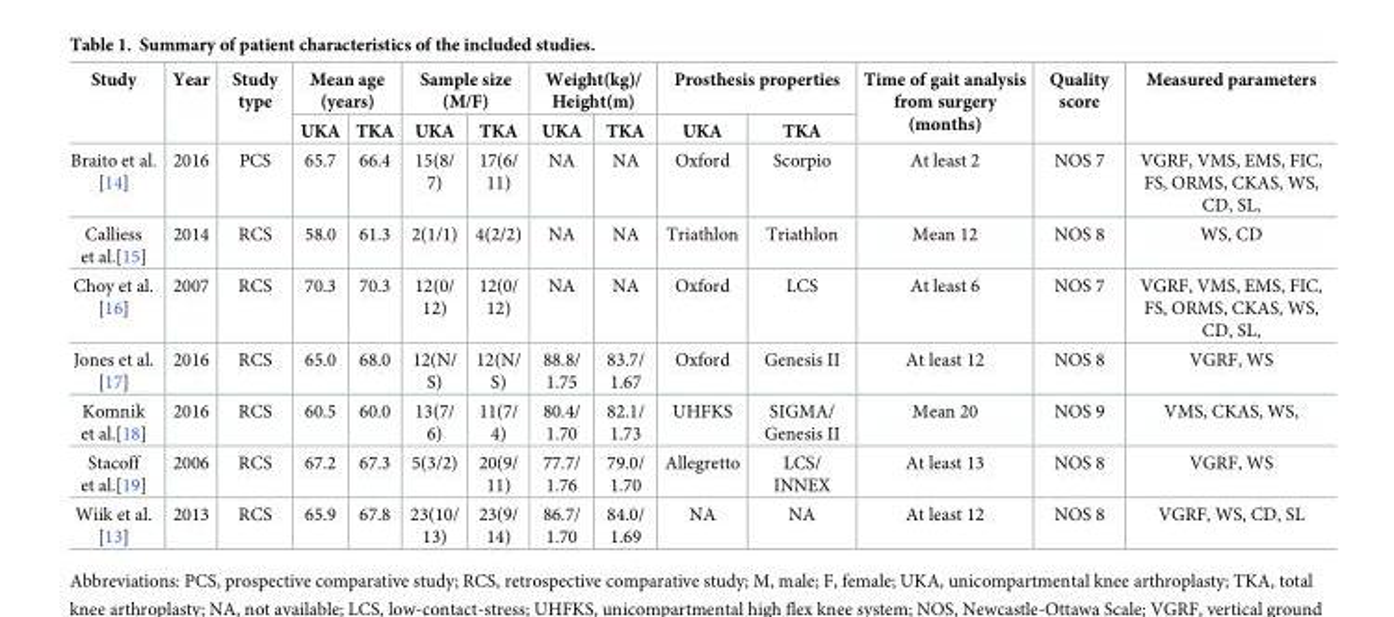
<table><thead><tr><td rowspan="2">Study</td><td rowspan="2">Year</td><td rowspan="2">Study type</td><td colspan="2">Mean age (years)</td><td colspan="2">Sample size (M/F)</td><td colspan="2">Weight(kg)/ Height(m)</td><td colspan="2">Prosthesis properties</td><td rowspan="2">Time of gait analysis from surgery (months)</td><td rowspan="2">Quality score</td><td rowspan="2">Measured parameters</td></tr><tr><td>UKA</td><td>TKA</td><td>UKA</td><td>TKA</td><td>UKA</td><td>TKA</td><td>UKA</td><td>TKA</td></tr></thead><tbody><tr><td>Braito et al. [14]</td><td>2016</td><td>PCS</td><td>65.7</td><td>66.4</td><td>15(8/ 7)</td><td>17(6/ 11)</td><td>NA</td><td>NA</td><td>Oxford</td><td>Scorpio</td><td>At least 2</td><td>NOS 7</td><td>VGRF, VMS, EMS, FIC, FS, ORMS, CKAS, WS, CD, SL,</td></tr><tr><td>Calliess et al.[15]</td><td>2014</td><td>RCS</td><td>58.0</td><td>61.3</td><td>2(1/1)</td><td>4(2/2)</td><td>NA</td><td>NA</td><td>Triathlon</td><td>Triathlon</td><td>Mean 12</td><td>NOS 8</td><td>WS, CD</td></tr><tr><td>Choy et al. [16]</td><td>2007</td><td>RCS</td><td>70.3</td><td>70.3</td><td>12(0/ 12)</td><td>12(0/ 12)</td><td>NA</td><td>NA</td><td>Oxford</td><td>LCS</td><td>At least 6</td><td>NOS 7</td><td>VGRF, VMS, EMS, FIC, FS, ORMS, CKAS, WS, CD, SL,</td></tr><tr><td>Jones et al. [17]</td><td>2016</td><td>RCS</td><td>65.0</td><td>68.0</td><td>12(N/ S)</td><td>12(N/ S)</td><td>88.8/ 1.75</td><td>83.7/ 1.67</td><td>Oxford</td><td>Genesis II</td><td>At least 12</td><td>NOS 8</td><td>VGRF, WS</td></tr><tr><td>Komnik et al.[18]</td><td>2016</td><td>RCS</td><td>60.5</td><td>60.0</td><td>13(7/ 6)</td><td>11(7/ 4)</td><td>80.4/ 1.70</td><td>82.1/ 1.73</td><td>UHFKS</td><td>SIGMA/ Genesis II</td><td>Mean 20</td><td>NOS 9</td><td>VMS, CKAS, WS,</td></tr><tr><td>Stacoff et al.[19]</td><td>2006</td><td>RCS</td><td>67.2</td><td>67.3</td><td>5(3/2)</td><td>20(9/ 11)</td><td>77.7/ 1.76</td><td>79.0/ 1.70</td><td>Allegretto</td><td>LCS/ INNEX</td><td>At least 13</td><td>NOS 8</td><td>VGRF, WS</td></tr><tr><td>Wiik et al. [13]</td><td>2013</td><td>RCS</td><td>65.9</td><td>67.8</td><td>23(10/ 13)</td><td>23(9/ 14)</td><td>86.7/ 1.70</td><td>84.0/ 1.69</td><td>NA</td><td>NA</td><td>At least 12</td><td>NOS 8</td><td>VGRF, WS, CD, SL</td></tr></tbody></table>